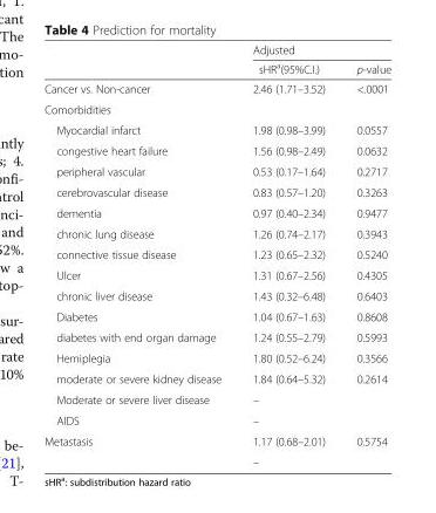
<table><thead><tr><td rowspan="2"></td><td colspan="2">Adjusted</td></tr><tr><td>sHR<sup>a</sup>(95%C.I.)</td><td>p-value</td></tr></thead><tbody><tr><td>Cancer vs. Non-cancer</td><td>2.46 (1.71–3.52)</td><td>&lt;.0001</td></tr><tr><td colspan="3">Comorbidities</td></tr><tr><td>Myocardial infarct</td><td>1.98 (0.98–3.99)</td><td>0.0557</td></tr><tr><td>congestive heart failure</td><td>1.56 (0.98–2.49)</td><td>0.0632</td></tr><tr><td>peripheral vascular</td><td>0.53 (0.17–1.64)</td><td>0.2717</td></tr><tr><td>cerebrovascular disease</td><td>0.83 (0.57–1.20)</td><td>0.3263</td></tr><tr><td>dementia</td><td>0.97 (0.40–2.34)</td><td>0.9477</td></tr><tr><td>chronic lung disease</td><td>1.26 (0.74–2.17)</td><td>0.3943</td></tr><tr><td>connective tissue disease</td><td>1.23 (0.65–2.32)</td><td>0.5240</td></tr><tr><td>Ulcer</td><td>1.31 (0.67–2.56)</td><td>0.4305</td></tr><tr><td>chronic liver disease</td><td>1.43 (0.32–6.48)</td><td>0.6403</td></tr><tr><td>Diabetes</td><td>1.04 (0.67–1.63)</td><td>0.8608</td></tr><tr><td>diabetes with end organ damage</td><td>1.24 (0.55–2.79)</td><td>0.5993</td></tr><tr><td>Hemiplegia</td><td>1.80 (0.52–6.24)</td><td>0.3566</td></tr><tr><td>moderate or severe kidney disease</td><td>1.84 (0.64–5.32)</td><td>0.2614</td></tr><tr><td>Moderate or severe liver disease</td><td>–</td><td></td></tr><tr><td>AIDS</td><td>–</td><td></td></tr><tr><td rowspan="2">Metastasis</td><td>1.17 (0.68–2.01)</td><td>0.5754</td></tr><tr><td>–</td><td></td></tr></tbody></table>